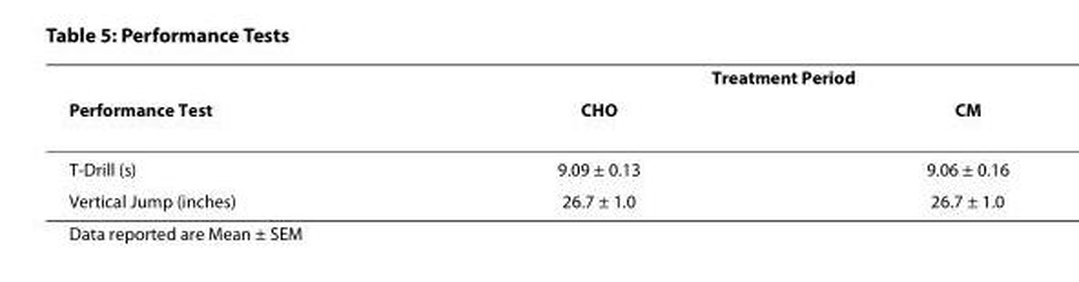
<table><thead><tr><td rowspan="2">Performance Test</td><td colspan="2">Treatment Period</td></tr><tr><td>CHO</td><td>CM</td></tr></thead><tbody><tr><td>T-Drill (s)</td><td>9.09 ± 0.13</td><td>9.06 ± 0.16</td></tr><tr><td>Vertical Jump (inches)</td><td>26.7 ± 1.0</td><td>26.7 ± 1.0</td></tr></tbody></table>